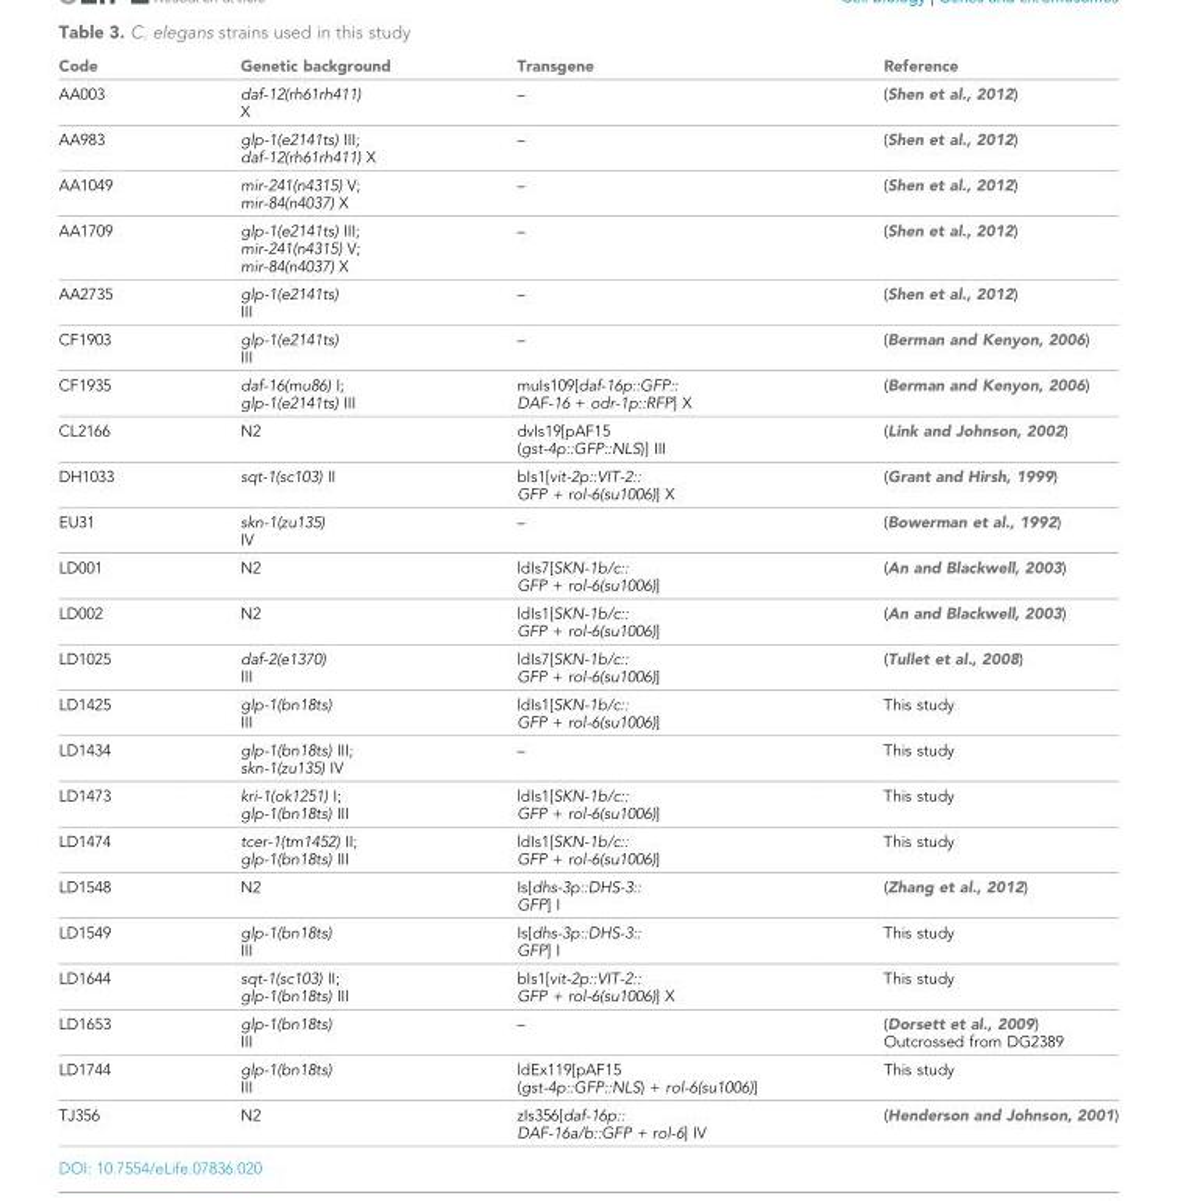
<table><thead><tr><td>Code</td><td>Genetic background</td><td>Transgene</td><td>Reference</td></tr></thead><tbody><tr><td>AA003</td><td>daf-12(rh61rh411) X</td><td>–</td><td>(Shen et al., 2012)</td></tr><tr><td>AA983</td><td>glp-1(e2141ts) III; daf-12(rh61rh411) X</td><td>–</td><td>(Shen et al., 2012)</td></tr><tr><td>AA1049</td><td>mir-241(n4315) V; mir-84(n4037) X</td><td>–</td><td>(Shen et al., 2012)</td></tr><tr><td>AA1709</td><td>glp-1(e2141ts) III; mir-241(n4315) V; mir-84(n4037) X</td><td>–</td><td>(Shen et al., 2012)</td></tr><tr><td>AA2735</td><td>glp-1(e2141ts) III</td><td>–</td><td>(Shen et al., 2012)</td></tr><tr><td>CF1903</td><td>glp-1(e2141ts) III</td><td>–</td><td>(Berman and Kenyon, 2006)</td></tr><tr><td>CF1935</td><td>daf-16(mu86) I; glp-1(e2141ts) III</td><td>muIs109[daf-16p::GFP:: DAF-16 + odr-1p::RFP] X</td><td>(Berman and Kenyon, 2006)</td></tr><tr><td>CL2166</td><td>N2</td><td>dvIs19[pAF15 (gst-4p::GFP::NLS)] III</td><td>(Link and Johnson, 2002)</td></tr><tr><td>DH1033</td><td>sqt-1(sc103) II</td><td>bIs1[vit-2p::VIT-2:: GFP + rol-6(su1006)] X</td><td>(Grant and Hirsh, 1999)</td></tr><tr><td>EU31</td><td>skn-1(zu135) IV</td><td>–</td><td>(Bowerman et al., 1992)</td></tr><tr><td>LD001</td><td>N2</td><td>ldIs7[SKN-1b/c:: GFP + rol-6(su1006)]</td><td>(An and Blackwell, 2003)</td></tr><tr><td>LD002</td><td>N2</td><td>ldIs1[SKN-1b/c:: GFP + rol-6(su1006)]</td><td>(An and Blackwell, 2003)</td></tr><tr><td>LD1025</td><td>daf-2(e1370) III</td><td>ldIs7[SKN-1b/c:: GFP + rol-6(su1006)]</td><td>(Tullet et al., 2008)</td></tr><tr><td>LD1425</td><td>glp-1(bn18ts) III</td><td>ldIs1[SKN-1b/c:: GFP + rol-6(su1006)]</td><td>This study</td></tr><tr><td>LD1434</td><td>glp-1(bn18ts) III; skn-1(zu135) IV</td><td>–</td><td>This study</td></tr><tr><td>LD1473</td><td>kri-1(ok1251) I; glp-1(bn18ts) III</td><td>ldIs1[SKN-1b/c:: GFP + rol-6(su1006)]</td><td>This study</td></tr><tr><td>LD1474</td><td>tcer-1(tm1452) II; glp-1(bn18ts) III</td><td>ldIs1[SKN-1b/c:: GFP + rol-6(su1006)]</td><td>This study</td></tr><tr><td>LD1548</td><td>N2</td><td>Is[dhs-3p::DHS-3:: GFP] I</td><td>(Zhang et al., 2012)</td></tr><tr><td>LD1549</td><td>glp-1(bn18ts) III</td><td>Is[dhs-3p::DHS-3:: GFP] I</td><td>This study</td></tr><tr><td>LD1644</td><td>sqt-1(sc103) II; glp-1(bn18ts) III</td><td>bIs1[vit-2p::VIT-2:: GFP + rol-6(su1006)] X</td><td>This study</td></tr><tr><td>LD1653</td><td>glp-1(bn18ts) III</td><td>–</td><td>(Dorsett et al., 2009) Outcrossed from DG2389</td></tr><tr><td>LD1744</td><td>glp-1(bn18ts) III</td><td>ldEx119[pAF15 (gst-4p::GFP::NLS) + rol-6(su1006)]</td><td>This study</td></tr><tr><td>TJ356</td><td>N2</td><td>zIs356[daf-16p:: DAF-16a/b::GFP + rol-6] IV</td><td>(Henderson and Johnson, 2001)</td></tr></tbody></table>